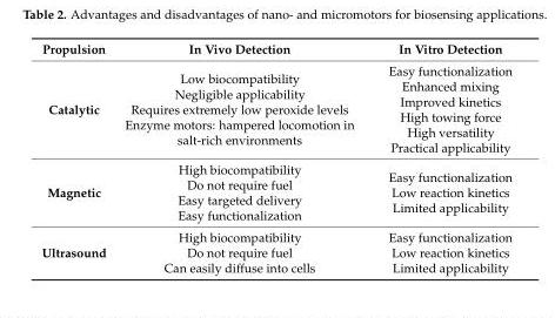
<table><thead><tr><td>Propulsion</td><td>In Vivo Detection</td><td>In Vitro Detection</td></tr></thead><tbody><tr><td>Catalytic</td><td>Low biocompatibility Negligible applicability Requires extremely low peroxide levels Enzyme motors: hampered locomotion in salt-rich environments</td><td>Easy functionalization Enhanced mixing Improved kinetics High towing force High versatility Practical applicability</td></tr><tr><td>Magnetic</td><td>High biocompatibility Do not require fuel Easy targeted delivery Easy functionalization</td><td>Easy functionalization Low reaction kinetics Limited applicability</td></tr><tr><td>Ultrasound</td><td>High biocompatibility Do not require fuel Can easily diffuse into cells</td><td>Easy functionalization Low reaction kinetics Limited applicability</td></tr></tbody></table>